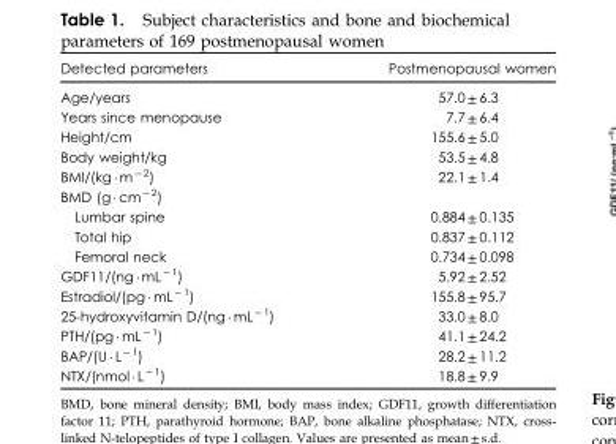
<table><thead><tr><td>Detected parameters</td><td>Postmenopausal women</td></tr></thead><tbody><tr><td>Age/years</td><td>57.0 ± 6.3</td></tr><tr><td>Years since menopause</td><td>7.7 ± 6.4</td></tr><tr><td>Height/cm</td><td>155.6 ± 5.0</td></tr><tr><td>Body weight/kg</td><td>53.5 ± 4.8</td></tr><tr><td>BMI/(kg · m <sup>− 2</sup>)</td><td>22.1 ± 1.4</td></tr><tr><td colspan="2">BMD (g · cm <sup>− 2</sup>)</td></tr><tr><td>Lumbar spine</td><td>0.884 ± 0.135</td></tr><tr><td>Total hip</td><td>0.837 ± 0.112</td></tr><tr><td>Femoral neck</td><td>0.734 ± 0.098</td></tr><tr><td>GDF11/(ng · mL <sup>− 1</sup>)</td><td>5.92 ± 2.52</td></tr><tr><td>Estradiol/(pg · mL <sup>− 1</sup>)</td><td>155.8 ± 95.7</td></tr><tr><td>25-hydroxyvitamin D/(ng · mL <sup>− 1</sup>)</td><td>33.0 ± 8.0</td></tr><tr><td>PTH/(pg · mL <sup>− 1</sup>)</td><td>41.1 ± 24.2</td></tr><tr><td>BAP/(U · L <sup>− 1</sup>)</td><td>28.2 ± 11.2</td></tr><tr><td>NTX/(nmol · L <sup>− 1</sup>)</td><td>18.8 ± 9.9</td></tr></tbody></table>